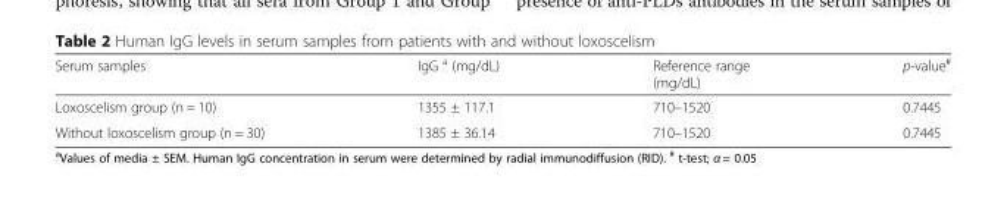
<table><thead><tr><td>Serum samples</td><td>IgG <sup>a</sup> (mg/dL)</td><td>Reference range (mg/dL)</td><td>p-value<sup>#</sup></td></tr></thead><tbody><tr><td>Loxoscelism group (n = 10)</td><td>1355 ± 117.1</td><td>710–1520</td><td>0.7445</td></tr><tr><td>Without loxoscelism group (n = 30)</td><td>1385 ± 36.14</td><td>710–1520</td><td>0.7445</td></tr></tbody></table>